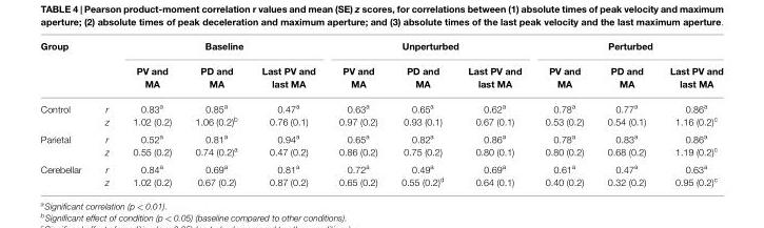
<table><thead><tr><td rowspan="2">Group</td><td rowspan="2"></td><td colspan="3">Baseline</td><td colspan="3">Unperturbed</td><td colspan="3">Perturbed</td></tr><tr><td>PV and MA</td><td>PD and MA</td><td>Last PV and last MA</td><td>PV and MA</td><td>PD and MA</td><td>Last PV and last MA</td><td>PV and MA</td><td>PD and MA</td><td>Last PV and last MA</td></tr></thead><tbody><tr><td rowspan="2">Control</td><td>r</td><td>0.83<sup>a</sup></td><td>0.85<sup>a</sup></td><td>0.47<sup>a</sup></td><td>0.63<sup>a</sup></td><td>0.65<sup>a</sup></td><td>0.62<sup>a</sup></td><td>0.78<sup>a</sup></td><td>0.77<sup>a</sup></td><td>0.86<sup>a</sup></td></tr><tr><td>z</td><td>1.02 (0.2)</td><td>1.06 (0.2)<sup>b</sup></td><td>0.76 (0.1)</td><td>0.97 (0.2)</td><td>0.93 (0.1)</td><td>0.67 (0.1)</td><td>0.53 (0.2)</td><td>0.54 (0.1)</td><td>1.16 (0.2)<sup>c</sup></td></tr><tr><td rowspan="2">Parietal</td><td>r</td><td>0.52<sup>a</sup></td><td>0.81<sup>a</sup></td><td>0.94<sup>a</sup></td><td>0.65<sup>a</sup></td><td>0.82<sup>a</sup></td><td>0.86<sup>a</sup></td><td>0.78<sup>a</sup></td><td>0.83<sup>a</sup></td><td>0.86<sup>a</sup></td></tr><tr><td>z</td><td>0.55 (0.2)</td><td>0.74 (0.2)<sup>a</sup></td><td>0.47 (0.2)</td><td>0.86 (0.2)</td><td>0.75 (0.2)</td><td>0.80 (0.1)</td><td>0.80 (0.2)</td><td>0.68 (0.2)</td><td>1.19 (0.2)<sup>c</sup></td></tr><tr><td rowspan="2">Cerebellar</td><td>r</td><td>0.84<sup>a</sup></td><td>0.69<sup>a</sup></td><td>0.81<sup>a</sup></td><td>0.72<sup>a</sup></td><td>0.49<sup>a</sup></td><td>0.69<sup>a</sup></td><td>0.61<sup>a</sup></td><td>0.47<sup>a</sup></td><td>0.63<sup>a</sup></td></tr><tr><td>z</td><td>1.02 (0.2)</td><td>0.67 (0.2)</td><td>0.87 (0.2)</td><td>0.65 (0.2)</td><td>0.55 (0.2)<sup>d</sup></td><td>0.64 (0.1)</td><td>0.40 (0.2)</td><td>0.32 (0.2)</td><td>0.95 (0.2)<sup>c</sup></td></tr></tbody></table>